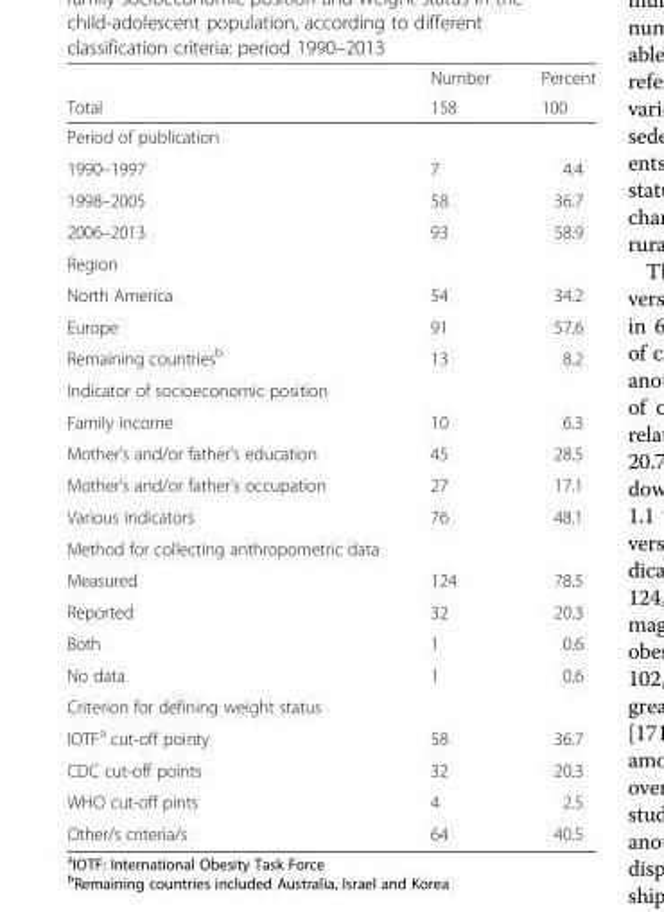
<table><thead><tr><td rowspan="2">Total</td><td rowspan="2">Number 158</td><td rowspan="2">Percent 100</td></tr><tr></tr></thead><tbody><tr><td colspan="3">Period of publication</td></tr><tr><td>1990–1997</td><td>7</td><td>4.4</td></tr><tr><td>1998–2005</td><td>58</td><td>36.7</td></tr><tr><td>2006–2013</td><td>93</td><td>58.9</td></tr><tr><td colspan="3">Region</td></tr><tr><td>North America</td><td>54</td><td>34.2</td></tr><tr><td>Europe</td><td>91</td><td>57.6</td></tr><tr><td>Remaining countries<sup>b</sup></td><td>13</td><td>8.2</td></tr><tr><td colspan="3">Indicator of socioeconomic position</td></tr><tr><td>Family income</td><td>10</td><td>6.3</td></tr><tr><td>Mother’s and/or father’s education</td><td>45</td><td>28.5</td></tr><tr><td>Mother’s and/or father’s occupation</td><td>27</td><td>17.1</td></tr><tr><td>Various indicators</td><td>76</td><td>48.1</td></tr><tr><td colspan="3">Method for collecting anthropometric data</td></tr><tr><td>Measured</td><td>124</td><td>78.5</td></tr><tr><td>Reported</td><td>32</td><td>20.3</td></tr><tr><td>Both</td><td>1</td><td>0.6</td></tr><tr><td>No data</td><td>1</td><td>0.6</td></tr><tr><td colspan="3">Criterion for defining weight status</td></tr><tr><td>IOTF<sup>a</sup> cut-off pointy</td><td>58</td><td>36.7</td></tr><tr><td>CDC cut-off points</td><td>32</td><td>20.3</td></tr><tr><td>WHO cut-off pints</td><td>4</td><td>2.5</td></tr><tr><td>Other/s criteria/s</td><td>64</td><td>40.5</td></tr></tbody></table>